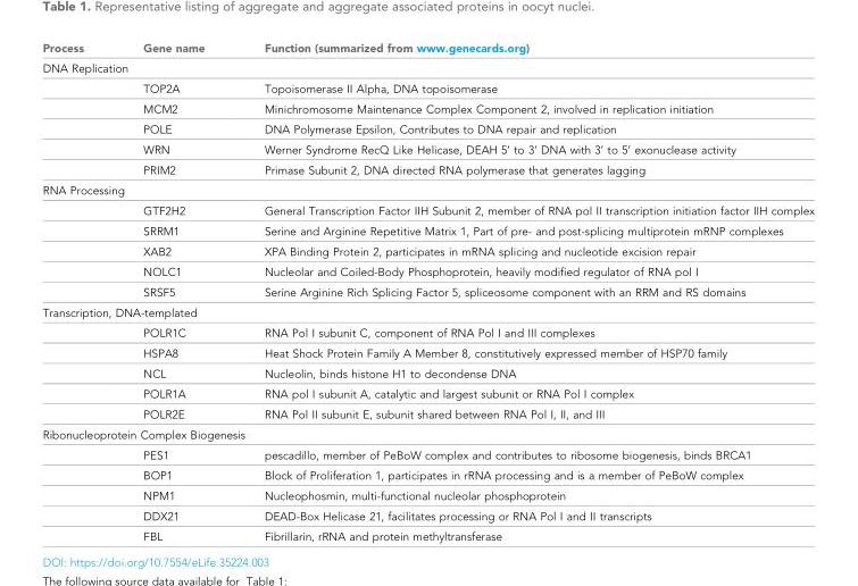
<table><thead><tr><td>Process</td><td>Gene name</td><td>Function (summarized from www.genecards.org)</td></tr></thead><tbody><tr><td colspan="3">DNA Replication</td></tr><tr><td></td><td>TOP2A</td><td>Topoisomerase II Alpha, DNA topoisomerase</td></tr><tr><td></td><td>MCM2</td><td>Minichromosome Maintenance Complex Component 2, involved in replication initiation</td></tr><tr><td></td><td>POLE</td><td>DNA Polymerase Epsilon, Contributes to DNA repair and replication</td></tr><tr><td></td><td>WRN</td><td>Werner Syndrome RecQ Like Helicase, DEAH 5’ to 3’ DNA with 3’ to 5’ exonuclease activity</td></tr><tr><td></td><td>PRIM2</td><td>Primase Subunit 2, DNA directed RNA polymerase that generates lagging</td></tr><tr><td colspan="3">RNA Processing</td></tr><tr><td></td><td>GTF2H2</td><td>General Transcription Factor IIH Subunit 2, member of RNA pol II transcription initiation factor IIH complex</td></tr><tr><td></td><td>SRRM1</td><td>Serine and Arginine Repetitive Matrix 1, Part of pre- and post-splicing multiprotein mRNP complexes</td></tr><tr><td></td><td>XAB2</td><td>XPA Binding Protein 2, participates in mRNA splicing and nucleotide excision repair</td></tr><tr><td></td><td>NOLC1</td><td>Nucleolar and Coiled-Body Phosphoprotein, heavily modified regulator of RNA pol I</td></tr><tr><td></td><td>SRSF5</td><td>Serine Arginine Rich Splicing Factor 5, spliceosome component with an RRM and RS domains</td></tr><tr><td colspan="3">Transcription, DNA-templated</td></tr><tr><td></td><td>POLR1C</td><td>RNA Pol I subunit C, component of RNA Pol I and III complexes</td></tr><tr><td></td><td>HSPA8</td><td>Heat Shock Protein Family A Member 8, constitutively expressed member of HSP70 family</td></tr><tr><td></td><td>NCL</td><td>Nucleolin, binds histone H1 to decondense DNA</td></tr><tr><td></td><td>POLR1A</td><td>RNA pol I subunit A, catalytic and largest subunit or RNA Pol I complex</td></tr><tr><td></td><td>POLR2E</td><td>RNA Pol II subunit E, subunit shared between RNA Pol I, II, and III</td></tr><tr><td colspan="3">Ribonucleoprotein Complex Biogenesis</td></tr><tr><td></td><td>PES1</td><td>pescadillo, member of PeBoW complex and contributes to ribosome biogenesis, binds BRCA1</td></tr><tr><td></td><td>BOP1</td><td>Block of Proliferation 1, participates in rRNA processing and is a member of PeBoW complex</td></tr><tr><td></td><td>NPM1</td><td>Nucleophosmin, multi-functional nucleolar phosphoprotein</td></tr><tr><td></td><td>DDX21</td><td>DEAD-Box Helicase 21, facilitates processing or RNA Pol I and II transcripts</td></tr><tr><td></td><td>FBL</td><td>Fibrillarin, rRNA and protein methyltransferase</td></tr></tbody></table>